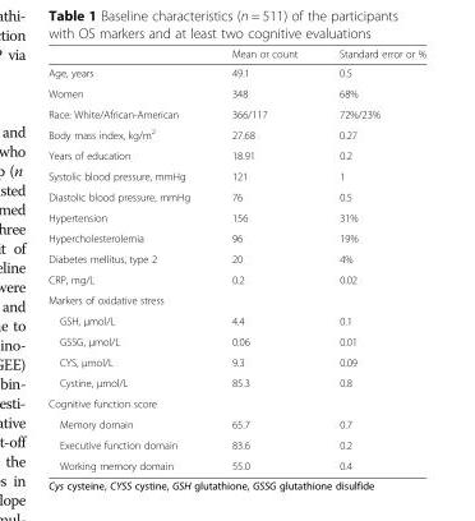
<table><thead><tr><td></td><td>Mean or count</td><td>Standard error or %</td></tr></thead><tbody><tr><td>Age, years</td><td>49.1</td><td>0.5</td></tr><tr><td>Women</td><td>348</td><td>68%</td></tr><tr><td>Race: White/African-American</td><td>366/117</td><td>72%/23%</td></tr><tr><td>Body mass index, kg/m<sup>2</sup></td><td>27.68</td><td>0.27</td></tr><tr><td>Years of education</td><td>18.91</td><td>0.2</td></tr><tr><td>Systolic blood pressure, mmHg</td><td>121</td><td>1</td></tr><tr><td>Diastolic blood pressure, mmHg</td><td>76</td><td>0.5</td></tr><tr><td>Hypertension</td><td>156</td><td>31%</td></tr><tr><td>Hypercholesterolemia</td><td>96</td><td>19%</td></tr><tr><td>Diabetes mellitus, type 2</td><td>20</td><td>4%</td></tr><tr><td>CRP, mg/L</td><td>0.2</td><td>0.02</td></tr><tr><td colspan="3">Markers of oxidative stress</td></tr><tr><td>GSH, μmol/L</td><td>4.4</td><td>0.1</td></tr><tr><td>GSSG, μmol/L</td><td>0.06</td><td>0.01</td></tr><tr><td>CYS, μmol/L</td><td>9.3</td><td>0.09</td></tr><tr><td>Cystine, μmol/L</td><td>85.3</td><td>0.8</td></tr><tr><td colspan="3">Cognitive function score</td></tr><tr><td>Memory domain</td><td>65.7</td><td>0.7</td></tr><tr><td>Executive function domain</td><td>83.6</td><td>0.2</td></tr><tr><td>Working memory domain</td><td>55.0</td><td>0.4</td></tr></tbody></table>